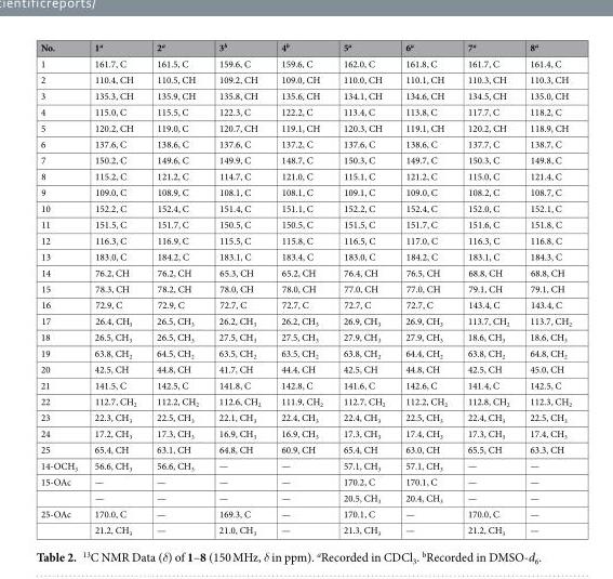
<table><thead><tr><td>No.</td><td>1<sup>a</sup></td><td>2<sup>a</sup></td><td>3<sup>b</sup></td><td>4<sup>b</sup></td><td>5<sup>a</sup></td><td>6<sup>a</sup></td><td>7<sup>a</sup></td><td>8<sup>a</sup></td></tr></thead><tbody><tr><td>1</td><td>161.7, C</td><td>161.5, C</td><td>159.6, C</td><td>159.6, C</td><td>162.0, C</td><td>161.8, C</td><td>161.7, C</td><td>161.4, C</td></tr><tr><td>2</td><td>110.4, CH</td><td>110.5, CH</td><td>109.2, CH</td><td>109.0, CH</td><td>110.0, CH</td><td>110.1, CH</td><td>110.3, CH</td><td>110.3, CH</td></tr><tr><td>3</td><td>135.3, CH</td><td>135.9, CH</td><td>135.8, CH</td><td>135.6, CH</td><td>134.1, CH</td><td>134.6, CH</td><td>134.5, CH</td><td>135.0, CH</td></tr><tr><td>4</td><td>115.0, C</td><td>115.5, C</td><td>122.3, C</td><td>122.2, C</td><td>113.4, C</td><td>113.8, C</td><td>117.7, C</td><td>118.2, C</td></tr><tr><td>5</td><td>120.2, CH</td><td>119.0, C</td><td>120.7, CH</td><td>119.1, CH</td><td>120.3, CH</td><td>119.1, CH</td><td>120.2, CH</td><td>118.9, CH</td></tr><tr><td>6</td><td>137.6, C</td><td>138.6, C</td><td>137.6, C</td><td>137.2, C</td><td>137.6, C</td><td>138.6, C</td><td>137.7, C</td><td>138.7, C</td></tr><tr><td>7</td><td>150.2, C</td><td>149.6, C</td><td>149.9, C</td><td>148.7, C</td><td>150.3, C</td><td>149.7, C</td><td>150.3, C</td><td>149.8, C</td></tr><tr><td>8</td><td>115.2, C</td><td>121.2, C</td><td>114.7, C</td><td>121.0, C</td><td>115.1, C</td><td>121.2, C</td><td>115.0, C</td><td>121.4, C</td></tr><tr><td>9</td><td>109.0, C</td><td>108.9, C</td><td>108.1, C</td><td>108.1, C</td><td>109.1, C</td><td>109.0, C</td><td>108.2, C</td><td>108.7, C</td></tr><tr><td>10</td><td>152.2, C</td><td>152.4, C</td><td>151.4, C</td><td>151.1, C</td><td>152.2, C</td><td>152.4, C</td><td>152.0, C</td><td>152.1, C</td></tr><tr><td>11</td><td>151.5, C</td><td>151.7, C</td><td>150.5, C</td><td>150.5, C</td><td>151.5, C</td><td>151.7, C</td><td>151.6, C</td><td>151.8, C</td></tr><tr><td>12</td><td>116.3, C</td><td>116.9, C</td><td>115.5, C</td><td>115.8, C</td><td>116.5, C</td><td>117.0, C</td><td>116.3, C</td><td>116.8, C</td></tr><tr><td>13</td><td>183.0, C</td><td>184.2, C</td><td>183.1, C</td><td>183.4, C</td><td>183.0, C</td><td>184.2, C</td><td>183.1, C</td><td>184.3, C</td></tr><tr><td>14</td><td>76.2, CH</td><td>76.2, CH</td><td>65.3, CH</td><td>65.2, CH</td><td>76.4, CH</td><td>76.5, CH</td><td>68.8, CH</td><td>68.8, CH</td></tr><tr><td>15</td><td>78.3, CH</td><td>78.2, CH</td><td>78.0, CH</td><td>78.0, CH</td><td>77.0, CH</td><td>77.0, CH</td><td>79.1, CH</td><td>79.1, CH</td></tr><tr><td>16</td><td>72.9, C</td><td>72.9, C</td><td>72.7, C</td><td>72.7, C</td><td>72.7, C</td><td>72.7, C</td><td>143.4, C</td><td>143.4, C</td></tr><tr><td>17</td><td>26.4, CH<sub>3</sub></td><td>26.5, CH<sub>3</sub></td><td>26.2, CH<sub>3</sub></td><td>26.2, CH<sub>3</sub></td><td>26.9, CH<sub>3</sub></td><td>26.9, CH<sub>3</sub></td><td>113.7, CH<sub>2</sub></td><td>113.7, CH<sub>2</sub></td></tr><tr><td>18</td><td>26.5, CH<sub>3</sub></td><td>26.5, CH<sub>3</sub></td><td>27.5, CH<sub>3</sub></td><td>27.5, CH<sub>3</sub></td><td>27.9, CH<sub>3</sub></td><td>27.9, CH<sub>3</sub></td><td>18.6, CH<sub>3</sub></td><td>18.6, CH<sub>3</sub></td></tr><tr><td>19</td><td>63.8, CH<sub>2</sub></td><td>64.5, CH<sub>2</sub></td><td>63.5, CH<sub>2</sub></td><td>63.5, CH<sub>2</sub></td><td>63.8, CH<sub>2</sub></td><td>64.4, CH<sub>2</sub></td><td>63.8, CH<sub>2</sub></td><td>64.8, CH<sub>2</sub></td></tr><tr><td>20</td><td>42.5, CH</td><td>44.8, CH</td><td>41.7, CH</td><td>44.4, CH</td><td>42.5, CH</td><td>44.8, CH</td><td>42.5, CH</td><td>45.0, CH</td></tr><tr><td>21</td><td>141.5, C</td><td>142.5, C</td><td>141.8, C</td><td>142.8, C</td><td>141.6, C</td><td>142.6, C</td><td>141.4, C</td><td>142.5, C</td></tr><tr><td>22</td><td>112.7, CH<sub>2</sub></td><td>112.2, CH<sub>2</sub></td><td>112.6, CH<sub>2</sub></td><td>111.9, CH<sub>2</sub></td><td>112.7, CH<sub>2</sub></td><td>112.2, CH<sub>2</sub></td><td>112.8, CH<sub>2</sub></td><td>112.3, CH<sub>2</sub></td></tr><tr><td>23</td><td>22.3, CH<sub>3</sub></td><td>22.5, CH<sub>3</sub></td><td>22.1, CH<sub>3</sub></td><td>22.4, CH<sub>3</sub></td><td>22.4, CH<sub>3</sub></td><td>22.5, CH<sub>3</sub></td><td>22.4, CH<sub>3</sub></td><td>22.5, CH<sub>3</sub></td></tr><tr><td>24</td><td>17.2, CH<sub>3</sub></td><td>17.3, CH<sub>3</sub></td><td>16.9, CH<sub>3</sub></td><td>16.9, CH<sub>3</sub></td><td>17.3, CH<sub>3</sub></td><td>17.4, CH<sub>3</sub></td><td>17.3, CH<sub>3</sub></td><td>17.4, CH<sub>3</sub></td></tr><tr><td>25</td><td>65.4, CH</td><td>63.1, CH</td><td>64.8, CH</td><td>60.9, CH</td><td>65.4, CH</td><td>63.0, CH</td><td>65.5, CH</td><td>63.3, CH</td></tr><tr><td>14-OCH<sub>3</sub></td><td>56.6, CH<sub>3</sub></td><td>56.6, CH<sub>3</sub></td><td>—</td><td>—</td><td>57.1, CH<sub>3</sub></td><td>57.1, CH<sub>3</sub></td><td>—</td><td>—</td></tr><tr><td rowspan="2">15-OAc</td><td>—</td><td>—</td><td>—</td><td>—</td><td>170.2, C</td><td>170.1, C</td><td>—</td><td>—</td></tr><tr><td>—</td><td>—</td><td>—</td><td>—</td><td>20.5, CH<sub>3</sub></td><td>20.4, CH<sub>3</sub></td><td>—</td><td>—</td></tr><tr><td rowspan="2">25-OAc</td><td>170.0, C</td><td>—</td><td>169.3, C</td><td>—</td><td>170.1, C</td><td>—</td><td>170.0, C</td><td>—</td></tr><tr><td>21.2, CH<sub>3</sub></td><td>—</td><td>21.0, CH<sub>3</sub></td><td>—</td><td>21.3, CH<sub>3</sub></td><td>—</td><td>21.2, CH<sub>3</sub></td><td>—</td></tr></tbody></table>